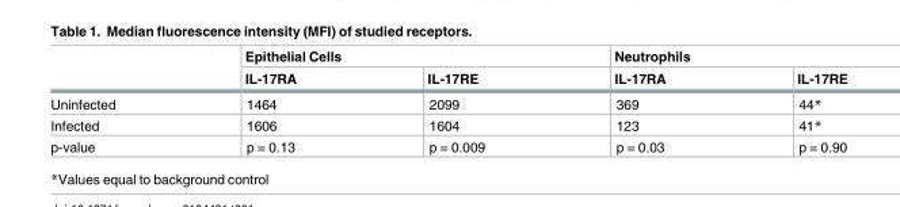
<table><thead><tr><td rowspan="2"></td><td colspan="2">Epithelial Cells</td><td colspan="2">Neutrophils</td></tr><tr><td>IL-17RA</td><td>IL-17RE</td><td>IL-17RA</td><td>IL-17RE</td></tr></thead><tbody><tr><td>Uninfected</td><td>1464</td><td>2099</td><td>369</td><td>44*</td></tr><tr><td>Infected</td><td>1606</td><td>1604</td><td>123</td><td>41*</td></tr><tr><td>p-value</td><td>p = 0.13</td><td>p = 0.009</td><td>p = 0.03</td><td>p = 0.90</td></tr></tbody></table>